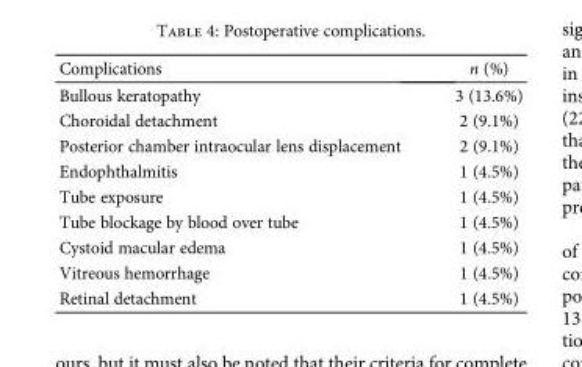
<table><thead><tr><td>Complications</td><td>n (%)</td></tr></thead><tbody><tr><td>Bullous keratopathy</td><td>3 (13.6%)</td></tr><tr><td>Choroidal detachment</td><td>2 (9.1%)</td></tr><tr><td>Posterior chamber intraocular lens displacement</td><td>2 (9.1%)</td></tr><tr><td>Endophthalmitis</td><td>1 (4.5%)</td></tr><tr><td>Tube exposure</td><td>1 (4.5%)</td></tr><tr><td>Tube blockage by blood over tube</td><td>1 (4.5%)</td></tr><tr><td>Cystoid macular edema</td><td>1 (4.5%)</td></tr><tr><td>Vitreous hemorrhage</td><td>1 (4.5%)</td></tr><tr><td>Retinal detachment</td><td>1 (4.5%)</td></tr></tbody></table>